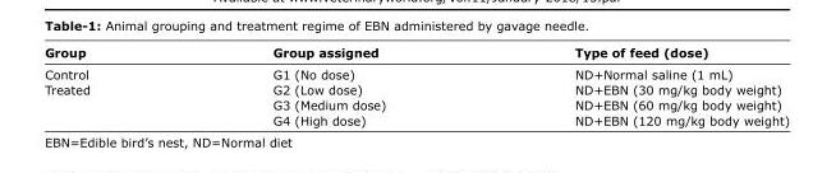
<table><thead><tr><td>Group</td><td>Group assigned</td><td>Type of feed (dose)</td></tr></thead><tbody><tr><td>Control</td><td>G1 (No dose)</td><td>ND+Normal saline (1 mL)</td></tr><tr><td rowspan="3">Treated</td><td>G2 (Low dose)</td><td>ND+EBN (30 mg/kg body weight)</td></tr><tr><td>G3 (Medium dose)</td><td>ND+EBN (60 mg/kg body weight)</td></tr><tr><td>G4 (High dose)</td><td>ND+EBN (120 mg/kg body weight)</td></tr></tbody></table>